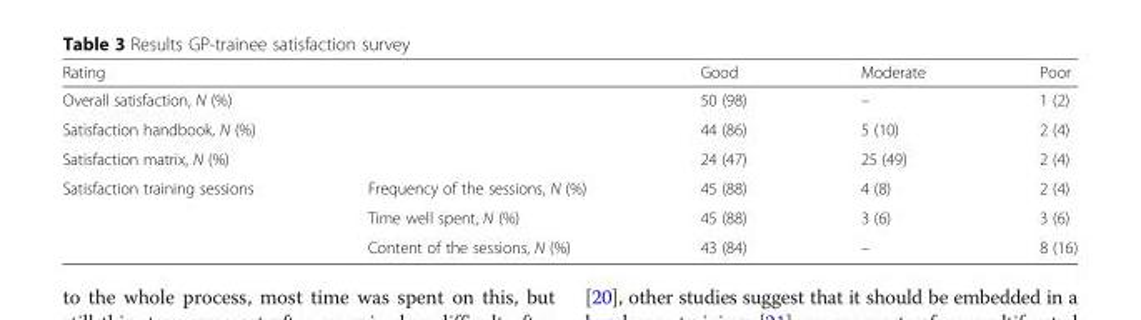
<table><thead><tr><td colspan="2">Rating</td><td>Good</td><td>Moderate</td><td>Poor</td></tr></thead><tbody><tr><td colspan="2">Overall satisfaction, N (%)</td><td>50 (98)</td><td>–</td><td>1 (2)</td></tr><tr><td colspan="2">Satisfaction handbook, N (%)</td><td>44 (86)</td><td>5 (10)</td><td>2 (4)</td></tr><tr><td colspan="2">Satisfaction matrix, N (%)</td><td>24 (47)</td><td>25 (49)</td><td>2 (4)</td></tr><tr><td rowspan="3">Satisfaction training sessions</td><td>Frequency of the sessions, N (%)</td><td>45 (88)</td><td>4 (8)</td><td>2 (4)</td></tr><tr><td>Time well spent, N (%)</td><td>45 (88)</td><td>3 (6)</td><td>3 (6)</td></tr><tr><td>Content of the sessions, N (%)</td><td>43 (84)</td><td>–</td><td>8 (16)</td></tr></tbody></table>